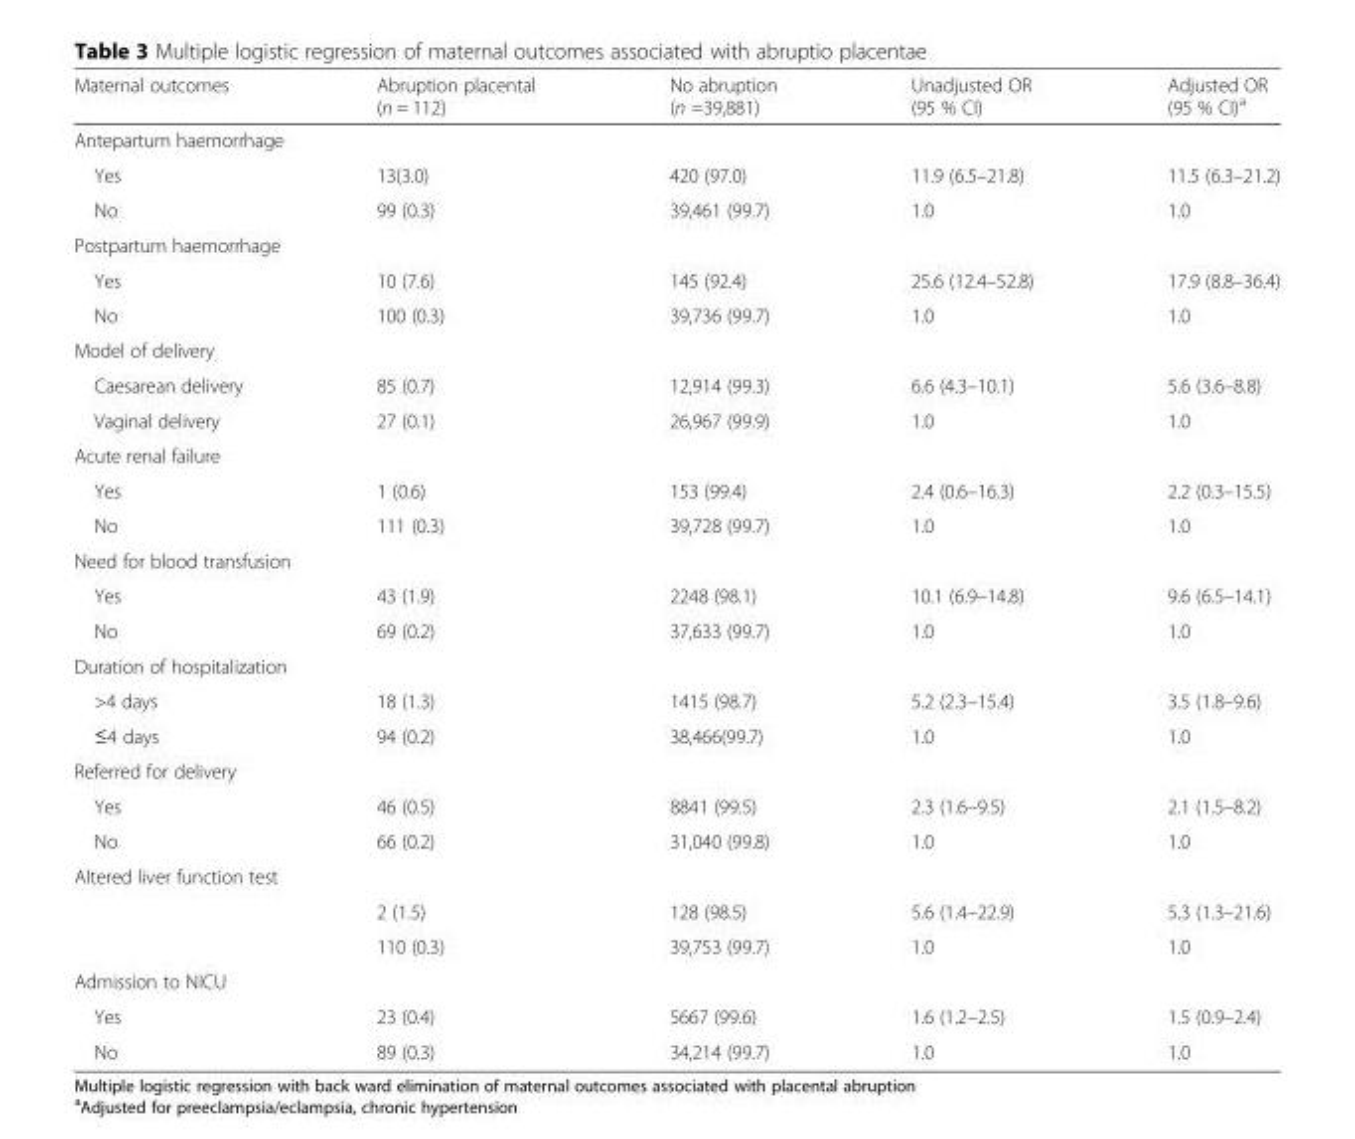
<table><thead><tr><td>Maternal outcomes</td><td>Abruption placental (n = 112)</td><td>No abruption (n =39,881)</td><td>Unadjusted OR (95 % CI)</td><td>Adjusted OR (95 % CI)<sup>a</sup></td></tr></thead><tbody><tr><td colspan="5">Antepartum haemorrhage</td></tr><tr><td>Yes</td><td>13(3.0)</td><td>420 (97.0)</td><td>11.9 (6.5–21.8)</td><td>11.5 (6.3–21.2)</td></tr><tr><td>No</td><td>99 (0.3)</td><td>39,461 (99.7)</td><td>1.0</td><td>1.0</td></tr><tr><td colspan="5">Postpartum haemorrhage</td></tr><tr><td>Yes</td><td>10 (7.6)</td><td>145 (92.4)</td><td>25.6 (12.4–52.8)</td><td>17.9 (8.8–36.4)</td></tr><tr><td>No</td><td>100 (0.3)</td><td>39,736 (99.7)</td><td>1.0</td><td>1.0</td></tr><tr><td colspan="5">Model of delivery</td></tr><tr><td>Caesarean delivery</td><td>85 (0.7)</td><td>12,914 (99.3)</td><td>6.6 (4.3–10.1)</td><td>5.6 (3.6–8.8)</td></tr><tr><td>Vaginal delivery</td><td>27 (0.1)</td><td>26,967 (99.9)</td><td>1.0</td><td>1.0</td></tr><tr><td colspan="5">Acute renal failure</td></tr><tr><td>Yes</td><td>1 (0.6)</td><td>153 (99.4)</td><td>2.4 (0.6–16.3)</td><td>2.2 (0.3–15.5)</td></tr><tr><td>No</td><td>111 (0.3)</td><td>39,728 (99.7)</td><td>1.0</td><td>1.0</td></tr><tr><td colspan="5">Need for blood transfusion</td></tr><tr><td>Yes</td><td>43 (1.9)</td><td>2248 (98.1)</td><td>10.1 (6.9–14.8)</td><td>9.6 (6.5–14.1)</td></tr><tr><td>No</td><td>69 (0.2)</td><td>37,633 (99.7)</td><td>1.0</td><td>1.0</td></tr><tr><td colspan="5">Duration of hospitalization</td></tr><tr><td>&gt;4 days</td><td>18 (1.3)</td><td>1415 (98.7)</td><td>5.2 (2.3–15.4)</td><td>3.5 (1.8–9.6)</td></tr><tr><td>≤4 days</td><td>94 (0.2)</td><td>38,466(99.7)</td><td>1.0</td><td>1.0</td></tr><tr><td colspan="5">Referred for delivery</td></tr><tr><td>Yes</td><td>46 (0.5)</td><td>8841 (99.5)</td><td>2.3 (1.6–9.5)</td><td>2.1 (1.5–8.2)</td></tr><tr><td>No</td><td>66 (0.2)</td><td>31,040 (99.8)</td><td>1.0</td><td>1.0</td></tr><tr><td colspan="5">Altered liver function test</td></tr><tr><td></td><td>2 (1.5)</td><td>128 (98.5)</td><td>5.6 (1.4–22.9)</td><td>5.3 (1.3–21.6)</td></tr><tr><td></td><td>110 (0.3)</td><td>39,753 (99.7)</td><td>1.0</td><td>1.0</td></tr><tr><td colspan="5">Admission to NICU</td></tr><tr><td>Yes</td><td>23 (0.4)</td><td>5667 (99.6)</td><td>1.6 (1.2–2.5)</td><td>1.5 (0.9–2.4)</td></tr><tr><td>No</td><td>89 (0.3)</td><td>34,214 (99.7)</td><td>1.0</td><td>1.0</td></tr></tbody></table>